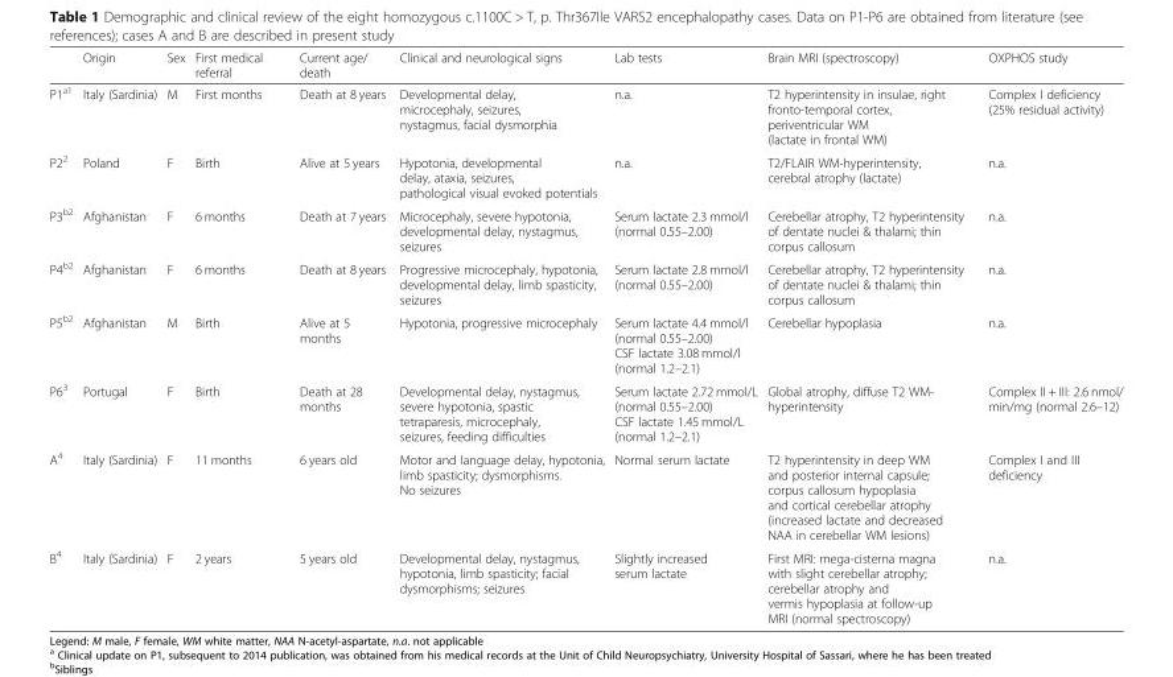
<table><thead><tr><td></td><td>Origin</td><td>Sex</td><td>First medical referral</td><td>Current age/ death</td><td>Clinical and neurological signs</td><td>Lab tests</td><td>Brain MRI (spectroscopy)</td><td>OXPHOS study</td></tr></thead><tbody><tr><td>P1<sup>a1</sup></td><td>Italy (Sardinia)</td><td>M</td><td>First months</td><td>Death at 8 years</td><td>Developmental delay, microcephaly, seizures, nystagmus, facial dysmorphia</td><td>n.a.</td><td>T2 hyperintensity in insulae, right fronto-temporal cortex, periventricular WM (lactate in frontal WM)</td><td>Complex I deficiency (25% residual activity)</td></tr><tr><td>P2<sup>2</sup></td><td>Poland</td><td>F</td><td>Birth</td><td>Alive at 5 years</td><td>Hypotonia, developmental delay, ataxia, seizures, pathological visual evoked potentials</td><td>n.a.</td><td>T2/FLAIR WM-hyperintensity, cerebral atrophy (lactate)</td><td>n.a.</td></tr><tr><td>P3<sup>b2</sup></td><td>Afghanistan</td><td>F</td><td>6 months</td><td>Death at 7 years</td><td>Microcephaly, severe hypotonia, developmental delay, nystagmus, seizures</td><td>Serum lactate 2.3 mmol/l (normal 0.55–2.00)</td><td>Cerebellar atrophy, T2 hyperintensity of dentate nuclei &amp; thalami; thin corpus callosum</td><td>n.a.</td></tr><tr><td>P4<sup>b2</sup></td><td>Afghanistan</td><td>F</td><td>6 months</td><td>Death at 8 years</td><td>Progressive microcephaly, hypotonia, developmental delay, limb spasticity, seizures</td><td>Serum lactate 2.8 mmol/l (normal 0.55–2.00)</td><td>Cerebellar atrophy, T2 hyperintensity of dentate nuclei &amp; thalami; thin corpus callosum</td><td>n.a.</td></tr><tr><td>P5<sup>b2</sup></td><td>Afghanistan</td><td>M</td><td>Birth</td><td>Alive at 5 months</td><td>Hypotonia, progressive microcephaly</td><td>Serum lactate 4.4 mmol/l (normal 0.55–2.00) CSF lactate 3.08 mmol/l (normal 1.2–2.1)</td><td>Cerebellar hypoplasia</td><td>n.a.</td></tr><tr><td>P6<sup>3</sup></td><td>Portugal</td><td>F</td><td>Birth</td><td>Death at 28 months</td><td>Developmental delay, nystagmus, severe hypotonia, spastic tetraparesis, microcephaly, seizures, feeding difficulties</td><td>Serum lactate 2.72 mmol/L (normal 0.55–2.00) CSF lactate 1.45 mmol/L (normal 1.2–2.1)</td><td>Global atrophy, diffuse T2 WM- hyperintensity</td><td>Complex II + III: 2.6 nmol/ min/mg (normal 2.6–12)</td></tr><tr><td>A<sup>4</sup></td><td>Italy (Sardinia)</td><td>F</td><td>11 months</td><td>6 years old</td><td>Motor and language delay, hypotonia, limb spasticity; dysmorphisms. No seizures</td><td>Normal serum lactate</td><td>T2 hyperintensity in deep WM and posterior internal capsule; corpus callosum hypoplasia and cortical cerebellar atrophy (increased lactate and decreased NAA in cerebellar WM lesions)</td><td>Complex I and III deficiency</td></tr><tr><td>B<sup>4</sup></td><td>Italy (Sardinia)</td><td>F</td><td>2 years</td><td>5 years old</td><td>Developmental delay, nystagmus, hypotonia, limb spasticity; facial dysmorphisms; seizures</td><td>Slightly increased serum lactate</td><td>First MRI: mega-cisterna magna with slight cerebellar atrophy; cerebellar atrophy and vermis hypoplasia at follow-up MRI (normal spectroscopy)</td><td>n.a.</td></tr></tbody></table>